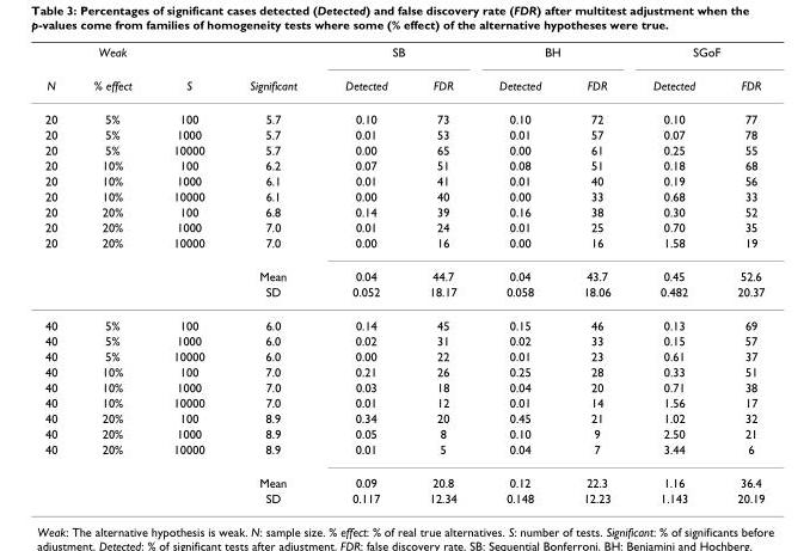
<table><thead><tr><td rowspan="2">N</td><td rowspan="2">Weak % effect</td><td rowspan="2">S</td><td rowspan="2">Significant</td><td colspan="2">SB</td><td colspan="2">BH</td><td colspan="2">SGoF</td></tr><tr><td>Detected</td><td>FDR</td><td>Detected</td><td>FDR</td><td>Detected</td><td>FDR</td></tr></thead><tbody><tr><td>20</td><td>5%</td><td>100</td><td>5.7</td><td>0.10</td><td>73</td><td>0.10</td><td>72</td><td>0.10</td><td>77</td></tr><tr><td>20</td><td>5%</td><td>1000</td><td>5.7</td><td>0.01</td><td>53</td><td>0.01</td><td>57</td><td>0.07</td><td>78</td></tr><tr><td>20</td><td>5%</td><td>10000</td><td>5.7</td><td>0.00</td><td>65</td><td>0.00</td><td>61</td><td>0.25</td><td>55</td></tr><tr><td>20</td><td>10%</td><td>100</td><td>6.2</td><td>0.07</td><td>51</td><td>0.08</td><td>51</td><td>0.18</td><td>68</td></tr><tr><td>20</td><td>10%</td><td>1000</td><td>6.1</td><td>0.01</td><td>41</td><td>0.01</td><td>40</td><td>0.19</td><td>56</td></tr><tr><td>20</td><td>10%</td><td>10000</td><td>6.1</td><td>0.00</td><td>40</td><td>0.00</td><td>33</td><td>0.68</td><td>33</td></tr><tr><td>20</td><td>20%</td><td>100</td><td>6.8</td><td>0.14</td><td>39</td><td>0.16</td><td>38</td><td>0.30</td><td>52</td></tr><tr><td>20</td><td>20%</td><td>1000</td><td>7.0</td><td>0.01</td><td>24</td><td>0.01</td><td>25</td><td>0.70</td><td>35</td></tr><tr><td rowspan="3">20</td><td>20%</td><td>10000</td><td>7.0</td><td>0.00</td><td>16</td><td>0.00</td><td>16</td><td>1.58</td><td>19</td></tr><tr><td></td><td></td><td>Mean</td><td>0.04</td><td>44.7</td><td>0.04</td><td>43.7</td><td>0.45</td><td>52.6</td></tr><tr><td></td><td></td><td>SD</td><td>0.052</td><td>18.17</td><td>0.058</td><td>18.06</td><td>0.482</td><td>20.37</td></tr><tr><td>40</td><td>5%</td><td>100</td><td>6.0</td><td>0.14</td><td>45</td><td>0.15</td><td>46</td><td>0.13</td><td>69</td></tr><tr><td>40</td><td>5%</td><td>1000</td><td>6.0</td><td>0.02</td><td>31</td><td>0.02</td><td>33</td><td>0.15</td><td>57</td></tr><tr><td>40</td><td>5%</td><td>10000</td><td>6.0</td><td>0.00</td><td>22</td><td>0.01</td><td>23</td><td>0.61</td><td>37</td></tr><tr><td>40</td><td>10%</td><td>100</td><td>7.0</td><td>0.21</td><td>26</td><td>0.25</td><td>28</td><td>0.33</td><td>51</td></tr><tr><td>40</td><td>10%</td><td>1000</td><td>7.0</td><td>0.03</td><td>18</td><td>0.04</td><td>20</td><td>0.71</td><td>38</td></tr><tr><td>40</td><td>10%</td><td>10000</td><td>7.0</td><td>0.01</td><td>12</td><td>0.01</td><td>14</td><td>1.56</td><td>17</td></tr><tr><td>40</td><td>20%</td><td>100</td><td>8.9</td><td>0.34</td><td>20</td><td>0.45</td><td>21</td><td>1.02</td><td>32</td></tr><tr><td>40</td><td>20%</td><td>1000</td><td>8.9</td><td>0.05</td><td>8</td><td>0.10</td><td>9</td><td>2.50</td><td>21</td></tr><tr><td rowspan="3">40</td><td>20%</td><td>10000</td><td>8.9</td><td>0.01</td><td>5</td><td>0.04</td><td>7</td><td>3.44</td><td>6</td></tr><tr><td></td><td></td><td>Mean</td><td>0.09</td><td>20.8</td><td>0.12</td><td>22.3</td><td>1.16</td><td>36.4</td></tr><tr><td></td><td></td><td>SD</td><td>0.117</td><td>12.34</td><td>0.148</td><td>12.23</td><td>1.143</td><td>20.19</td></tr></tbody></table>